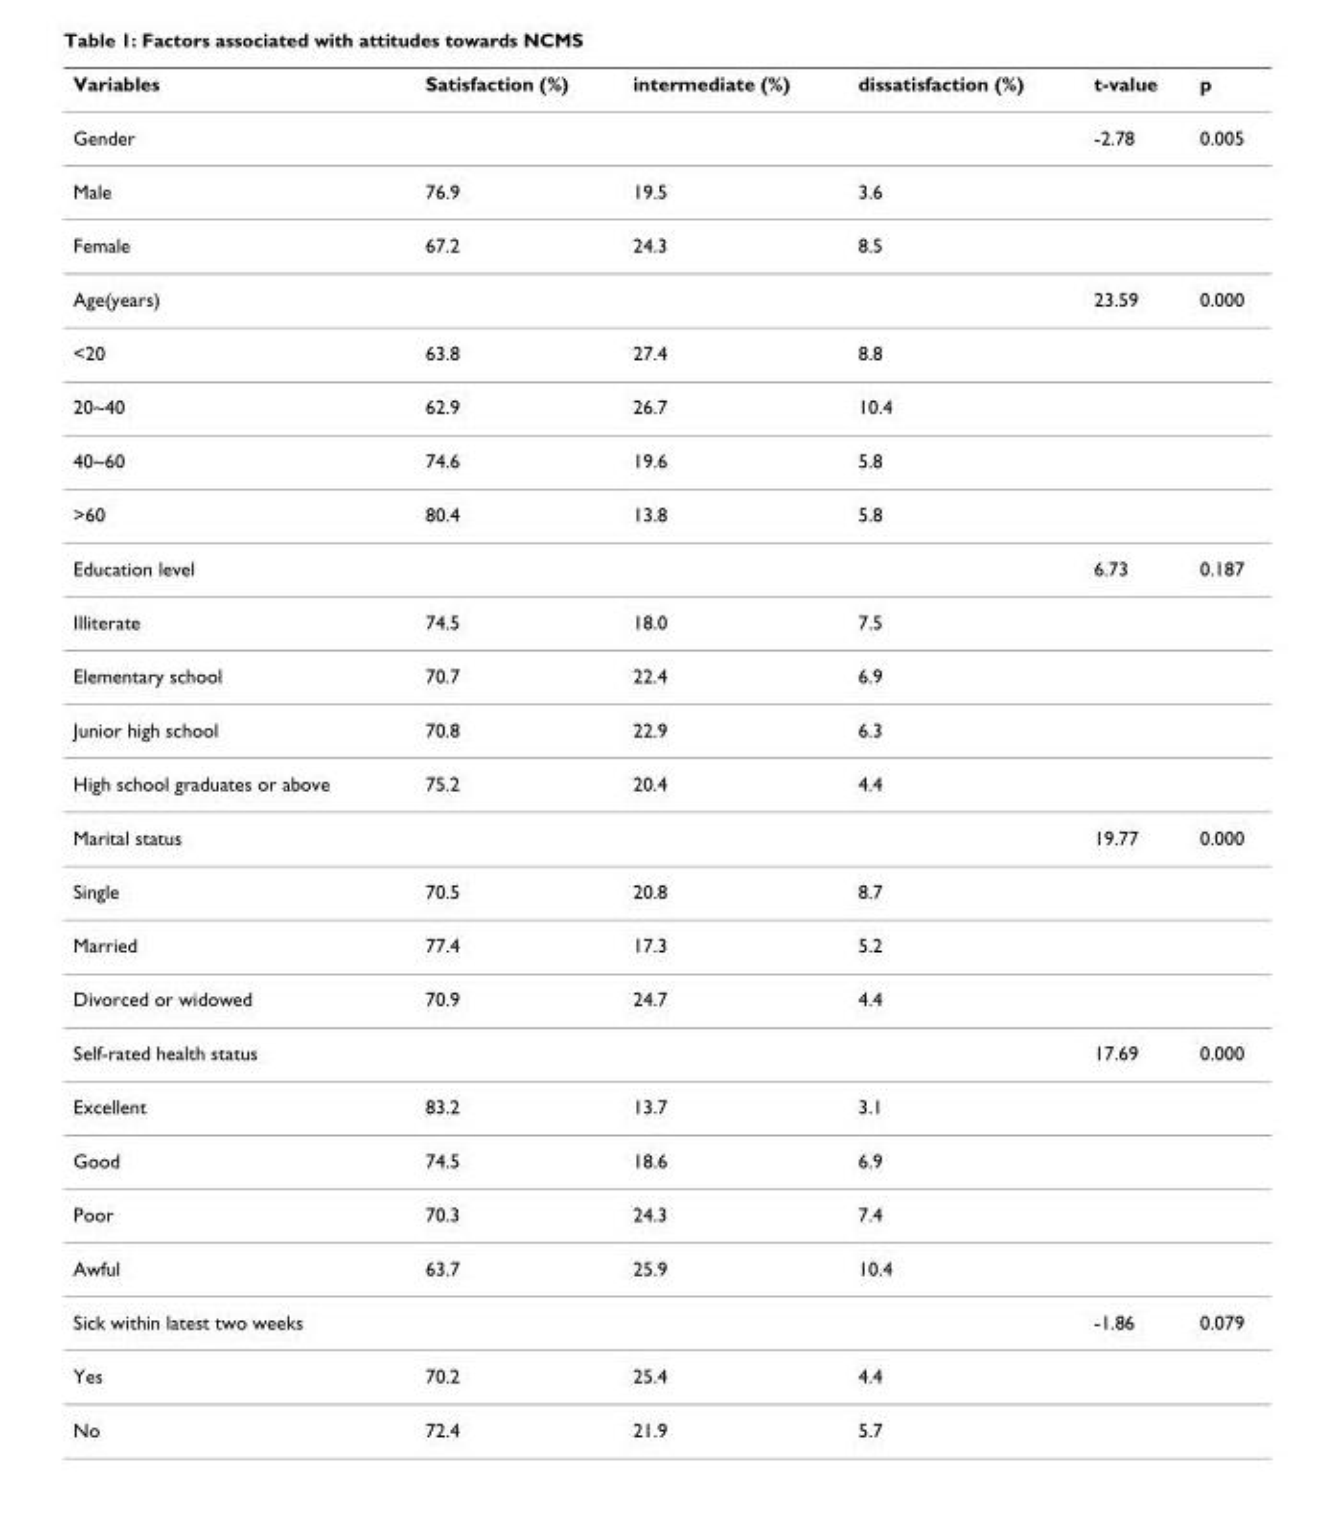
<table><thead><tr><td>Variables</td><td>Satisfaction (%)</td><td>intermediate (%)</td><td>dissatisfaction (%)</td><td>t-value</td><td>p</td></tr></thead><tbody><tr><td>Gender</td><td></td><td></td><td></td><td>-2.78</td><td>0.005</td></tr><tr><td>Male</td><td>76.9</td><td>19.5</td><td>3.6</td><td></td><td></td></tr><tr><td>Female</td><td>67.2</td><td>24.3</td><td>8.5</td><td></td><td></td></tr><tr><td>Age(years)</td><td></td><td></td><td></td><td>23.59</td><td>0.000</td></tr><tr><td>&lt;20</td><td>63.8</td><td>27.4</td><td>8.8</td><td></td><td></td></tr><tr><td>20~40</td><td>62.9</td><td>26.7</td><td>10.4</td><td></td><td></td></tr><tr><td>40~60</td><td>74.6</td><td>19.6</td><td>5.8</td><td></td><td></td></tr><tr><td>&gt;60</td><td>80.4</td><td>13.8</td><td>5.8</td><td></td><td></td></tr><tr><td>Education level</td><td></td><td></td><td></td><td>6.73</td><td>0.187</td></tr><tr><td>Illiterate</td><td>74.5</td><td>18.0</td><td>7.5</td><td></td><td></td></tr><tr><td>Elementary school</td><td>70.7</td><td>22.4</td><td>6.9</td><td></td><td></td></tr><tr><td>Junior high school</td><td>70.8</td><td>22.9</td><td>6.3</td><td></td><td></td></tr><tr><td>High school graduates or above</td><td>75.2</td><td>20.4</td><td>4.4</td><td></td><td></td></tr><tr><td>Marital status</td><td></td><td></td><td></td><td>19.77</td><td>0.000</td></tr><tr><td>Single</td><td>70.5</td><td>20.8</td><td>8.7</td><td></td><td></td></tr><tr><td>Married</td><td>77.4</td><td>17.3</td><td>5.2</td><td></td><td></td></tr><tr><td>Divorced or widowed</td><td>70.9</td><td>24.7</td><td>4.4</td><td></td><td></td></tr><tr><td>Self-rated health status</td><td></td><td></td><td></td><td>17.69</td><td>0.000</td></tr><tr><td>Excellent</td><td>83.2</td><td>13.7</td><td>3.1</td><td></td><td></td></tr><tr><td>Good</td><td>74.5</td><td>18.6</td><td>6.9</td><td></td><td></td></tr><tr><td>Poor</td><td>70.3</td><td>24.3</td><td>7.4</td><td></td><td></td></tr><tr><td>Awful</td><td>63.7</td><td>25.9</td><td>10.4</td><td></td><td></td></tr><tr><td>Sick within latest two weeks</td><td></td><td></td><td></td><td>-1.86</td><td>0.079</td></tr><tr><td>Yes</td><td>70.2</td><td>25.4</td><td>4.4</td><td></td><td></td></tr><tr><td>No</td><td>72.4</td><td>21.9</td><td>5.7</td><td></td><td></td></tr></tbody></table>